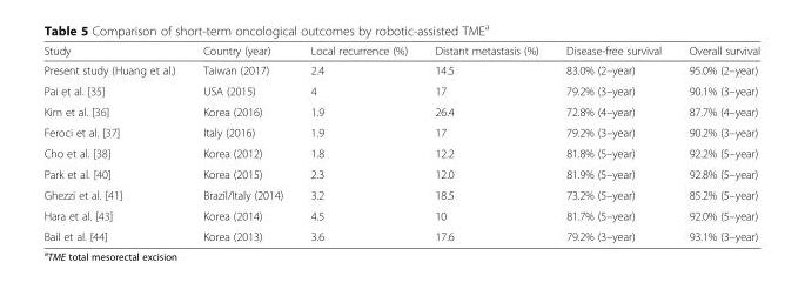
<table><thead><tr><td>Study</td><td>Country (year)</td><td>Local recurrence (%)</td><td>Distant metastasis (%)</td><td>Disease-free survival</td><td>Overall survival</td></tr></thead><tbody><tr><td>Present study (Huang et al.)</td><td>Taiwan (2017)</td><td>2.4</td><td>14.5</td><td>83.0% (2–year)</td><td>95.0% (2–year)</td></tr><tr><td>Pai et al. [35]</td><td>USA (2015)</td><td>4</td><td>17</td><td>79.2% (3–year)</td><td>90.1% (3–year)</td></tr><tr><td>Kim et al. [36]</td><td>Korea (2016)</td><td>1.9</td><td>26.4</td><td>72.8% (4–year)</td><td>87.7% (4–year)</td></tr><tr><td>Feroci et al. [37]</td><td>Italy (2016)</td><td>1.9</td><td>17</td><td>79.2% (3–year)</td><td>90.2% (3–year)</td></tr><tr><td>Cho et al. [38]</td><td>Korea (2012)</td><td>1.8</td><td>12.2</td><td>81.8% (5–year)</td><td>92.2% (5–year)</td></tr><tr><td>Park et al. [40]</td><td>Korea (2015)</td><td>2.3</td><td>12.0</td><td>81.9% (5–year)</td><td>92.8% (5–year)</td></tr><tr><td>Ghezzi et al. [41]</td><td>Brazil/Italy (2014)</td><td>3.2</td><td>18.5</td><td>73.2% (5–year)</td><td>85.2% (5–year)</td></tr><tr><td>Hara et al. [43]</td><td>Korea (2014)</td><td>4.5</td><td>10</td><td>81.7% (5–year)</td><td>92.0% (5–year)</td></tr><tr><td>Bail et al. [44]</td><td>Korea (2013)</td><td>3.6</td><td>17.6</td><td>79.2% (3–year)</td><td>93.1% (3–year)</td></tr></tbody></table>